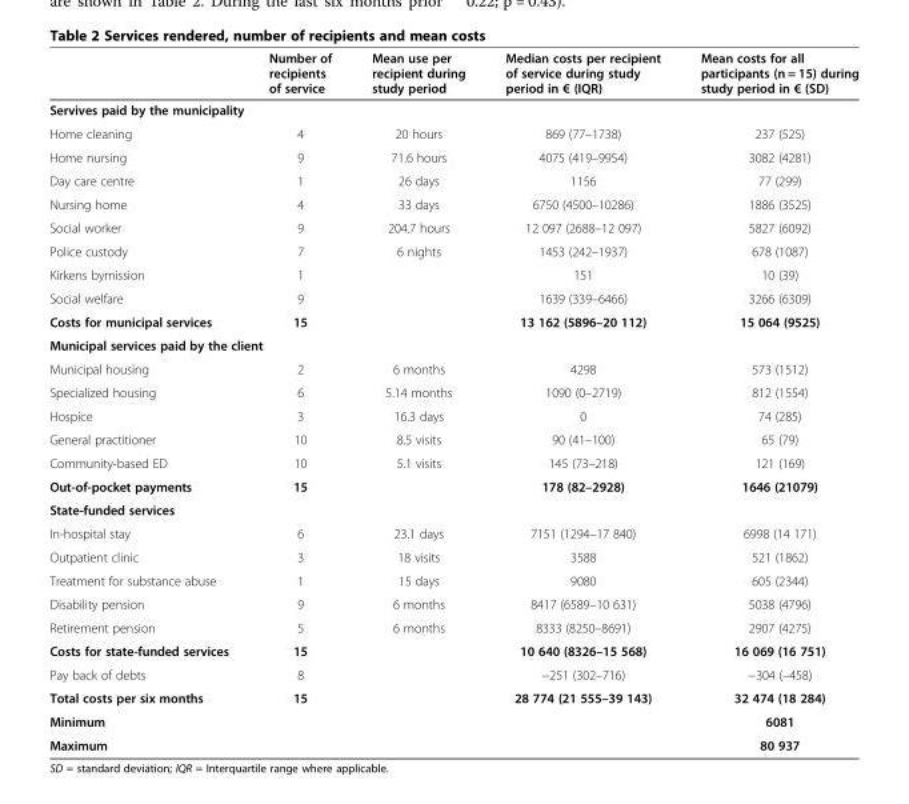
<table><thead><tr><td></td><td>Number of recipients of service</td><td>Mean use per recipient during study period</td><td>Median costs per recipient of service during study period in € (IQR)</td><td>Mean costs for all participants (n = 15) during study period in € (SD)</td></tr></thead><tbody><tr><td colspan="5">Servives paid by the municipality</td></tr><tr><td>Home cleaning</td><td>4</td><td>20 hours</td><td>869 (77–1738)</td><td>237 (525)</td></tr><tr><td>Home nursing</td><td>9</td><td>71.6 hours</td><td>4075 (419–9954)</td><td>3082 (4281)</td></tr><tr><td>Day care centre</td><td>1</td><td>26 days</td><td>1156</td><td>77 (299)</td></tr><tr><td>Nursing home</td><td>4</td><td>33 days</td><td>6750 (4500–10286)</td><td>1886 (3525)</td></tr><tr><td>Social worker</td><td>9</td><td>204.7 hours</td><td>12 097 (2688–12 097)</td><td>5827 (6092)</td></tr><tr><td>Police custody</td><td>7</td><td>6 nights</td><td>1453 (242–1937)</td><td>678 (1087)</td></tr><tr><td>Kirkens bymission</td><td>1</td><td></td><td>151</td><td>10 (39)</td></tr><tr><td>Social welfare</td><td>9</td><td></td><td>1639 (339–6466)</td><td>3266 (6309)</td></tr><tr><td>Costs for municipal services</td><td>15</td><td></td><td>13 162 (5896–20 112)</td><td>15 064 (9525)</td></tr><tr><td colspan="5">Municipal services paid by the client</td></tr><tr><td>Municipal housing</td><td>2</td><td>6 months</td><td>4298</td><td>573 (1512)</td></tr><tr><td>Specialized housing</td><td>6</td><td>5.14 months</td><td>1090 (0–2719)</td><td>812 (1554)</td></tr><tr><td>Hospice</td><td>3</td><td>16.3 days</td><td>0</td><td>74 (285)</td></tr><tr><td>General practitioner</td><td>10</td><td>8.5 visits</td><td>90 (41–100)</td><td>65 (79)</td></tr><tr><td>Community-based ED</td><td>10</td><td>5.1 visits</td><td>145 (73–218)</td><td>121 (169)</td></tr><tr><td>Out-of-pocket payments</td><td>15</td><td></td><td>178 (82–2928)</td><td>1646 (21079)</td></tr><tr><td colspan="5">State-funded services</td></tr><tr><td>In-hospital stay</td><td>6</td><td>23.1 days</td><td>7151 (1294–17 840)</td><td>6998 (14 171)</td></tr><tr><td>Outpatient clinic</td><td>3</td><td>18 visits</td><td>3588</td><td>521 (1862)</td></tr><tr><td>Treatment for substance abuse</td><td>1</td><td>15 days</td><td>9080</td><td>605 (2344)</td></tr><tr><td>Disability pension</td><td>9</td><td>6 months</td><td>8417 (6589–10 631)</td><td>5038 (4796)</td></tr><tr><td>Retirement pension</td><td>5</td><td>6 months</td><td>8333 (8250–8691)</td><td>2907 (4275)</td></tr><tr><td>Costs for state-funded services</td><td>15</td><td></td><td>10 640 (8326–15 568)</td><td>16 069 (16 751)</td></tr><tr><td>Pay back of debts</td><td>8</td><td></td><td>−251 (302–716)</td><td>−304 (–458)</td></tr><tr><td>Total costs per six months</td><td>15</td><td></td><td>28 774 (21 555–39 143)</td><td>32 474 (18 284)</td></tr><tr><td>Minimum</td><td></td><td></td><td></td><td>6081</td></tr><tr><td>Maximum</td><td></td><td></td><td></td><td>80 937</td></tr></tbody></table>